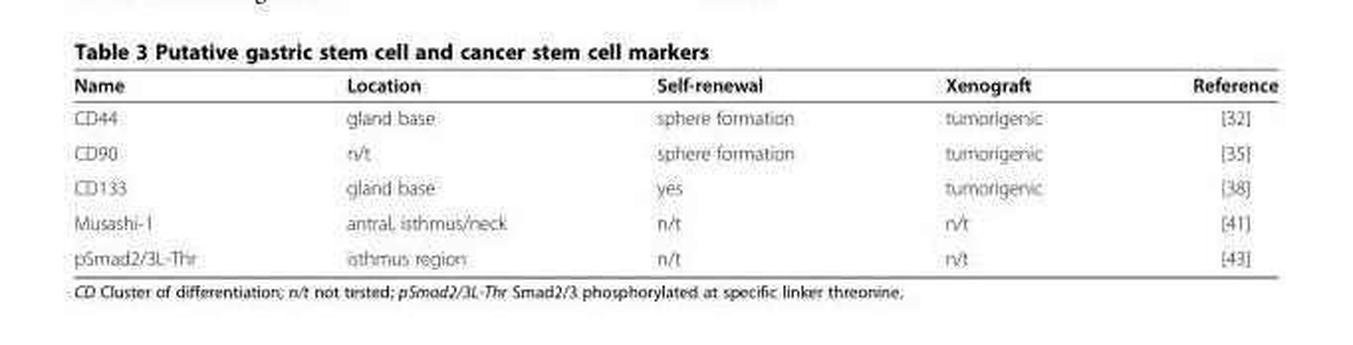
<table><thead><tr><td>Name</td><td>Location</td><td>Self-renewal</td><td>Xenograft</td><td>Reference</td></tr></thead><tbody><tr><td>CD44</td><td>gland base</td><td>sphere formation</td><td>tumorigenic</td><td>[32]</td></tr><tr><td>CD90</td><td>n/t</td><td>sphere formation</td><td>tumorigenic</td><td>[35]</td></tr><tr><td>CD133</td><td>gland base</td><td>yes</td><td>tumorigenic</td><td>[38]</td></tr><tr><td>Musashi-1</td><td>antral, isthmus/neck</td><td>n/t</td><td>n/t</td><td>[41]</td></tr><tr><td>pSmad2/3L-Thr</td><td>isthmus region</td><td>n/t</td><td>n/t</td><td>[43]</td></tr></tbody></table>